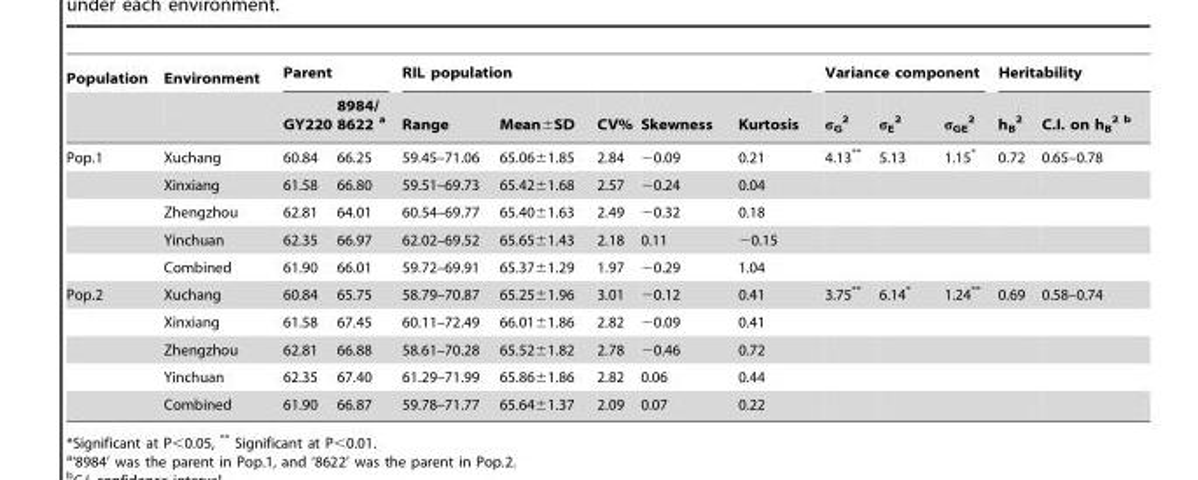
<table><thead><tr><td rowspan="2">Population</td><td rowspan="2">Environment</td><td colspan="2">Parent</td><td colspan="5">RIL population</td><td colspan="3">Variance component</td><td colspan="2">Heritability</td></tr><tr><td>GY220</td><td>8984/ 8622 a</td><td>Range</td><td>Mean±SD</td><td>CV%</td><td>Skewness</td><td>Kurtosis</td><td>σ<sub>G</sub> <sup>2</sup></td><td>σ<sub>E</sub> <sup>2</sup></td><td>σ<sub>GE</sub> <sup>2</sup></td><td>h<sub>B</sub> <sup>2</sup></td><td>C.I. on h<sub>B</sub> <sup>2</sup> b</td></tr></thead><tbody><tr><td rowspan="5">Pop.1</td><td>Xuchang</td><td>60.84</td><td>66.25</td><td>59.45–71.06</td><td>65.06±1.85</td><td>2.84</td><td>−0.09</td><td>0.21</td><td>4.13**</td><td>5.13</td><td>1.15*</td><td>0.72</td><td>0.65–0.78</td></tr><tr><td>Xinxiang</td><td>61.58</td><td>66.80</td><td>59.51–69.73</td><td>65.42±1.68</td><td>2.57</td><td>−0.24</td><td>0.04</td><td></td><td></td><td></td><td></td><td></td></tr><tr><td>Zhengzhou</td><td>62.81</td><td>64.01</td><td>60.54–69.77</td><td>65.40±1.63</td><td>2.49</td><td>−0.32</td><td>0.18</td><td></td><td></td><td></td><td></td><td></td></tr><tr><td>Yinchuan</td><td>62.35</td><td>66.97</td><td>62.02–69.52</td><td>65.65±1.43</td><td>2.18</td><td>0.11</td><td>−0.15</td><td></td><td></td><td></td><td></td><td></td></tr><tr><td>Combined</td><td>61.90</td><td>66.01</td><td>59.72–69.91</td><td>65.37±1.29</td><td>1.97</td><td>−0.29</td><td>1.04</td><td></td><td></td><td></td><td></td><td></td></tr><tr><td rowspan="5">Pop.2</td><td>Xuchang</td><td>60.84</td><td>65.75</td><td>58.79–70.87</td><td>65.25±1.96</td><td>3.01</td><td>−0.12</td><td>0.41</td><td>3.75**</td><td>6.14*</td><td>1.24**</td><td>0.69</td><td>0.58–0.74</td></tr><tr><td>Xinxiang</td><td>61.58</td><td>67.45</td><td>60.11–72.49</td><td>66.01±1.86</td><td>2.82</td><td>−0.09</td><td>0.41</td><td></td><td></td><td></td><td></td><td></td></tr><tr><td>Zhengzhou</td><td>62.81</td><td>66.88</td><td>58.61–70.28</td><td>65.52±1.82</td><td>2.78</td><td>−0.46</td><td>0.72</td><td></td><td></td><td></td><td></td><td></td></tr><tr><td>Yinchuan</td><td>62.35</td><td>67.40</td><td>61.29–71.99</td><td>65.86±1.86</td><td>2.82</td><td>0.06</td><td>0.44</td><td></td><td></td><td></td><td></td><td></td></tr><tr><td>Combined</td><td>61.90</td><td>66.87</td><td>59.78–71.77</td><td>65.64±1.37</td><td>2.09</td><td>0.07</td><td>0.22</td><td></td><td></td><td></td><td></td><td></td></tr></tbody></table>